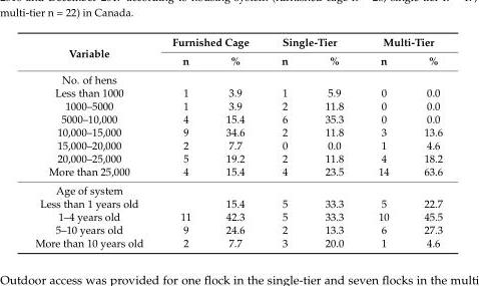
<table><thead><tr><td rowspan="2">Variable</td><td colspan="2">Furnished Cage</td><td colspan="2">Single-Tier</td><td colspan="2">Multi-Tier</td></tr><tr><td>n</td><td>%</td><td>n</td><td>%</td><td>n</td><td>%</td></tr></thead><tbody><tr><td colspan="7">No. of hens</td></tr><tr><td>Less than 1000</td><td>1</td><td>3.9</td><td>1</td><td>5.9</td><td>0</td><td>0.0</td></tr><tr><td>1000–5000</td><td>1</td><td>3.9</td><td>2</td><td>11.8</td><td>0</td><td>0.0</td></tr><tr><td>5000–10,000</td><td>4</td><td>15.4</td><td>6</td><td>35.3</td><td>0</td><td>0.0</td></tr><tr><td>10,000–15,000</td><td>9</td><td>34.6</td><td>2</td><td>11.8</td><td>3</td><td>13.6</td></tr><tr><td>15,000–20,000</td><td>2</td><td>7.7</td><td>0</td><td>0.0</td><td>1</td><td>4.6</td></tr><tr><td>20,000–25,000</td><td>5</td><td>19.2</td><td>2</td><td>11.8</td><td>4</td><td>18.2</td></tr><tr><td>More than 25,000</td><td>4</td><td>15.4</td><td>4</td><td>23.5</td><td>14</td><td>63.6</td></tr><tr><td colspan="7">Age of system</td></tr><tr><td>Less than 1 years old</td><td></td><td>15.4</td><td>5</td><td>33.3</td><td>5</td><td>22.7</td></tr><tr><td>1–4 years old</td><td>11</td><td>42.3</td><td>5</td><td>33.3</td><td>10</td><td>45.5</td></tr><tr><td>5–10 years old</td><td>9</td><td>24.6</td><td>2</td><td>13.3</td><td>6</td><td>27.3</td></tr><tr><td>More than 10 years old</td><td>2</td><td>7.7</td><td>3</td><td>20.0</td><td>1</td><td>4.6</td></tr></tbody></table>